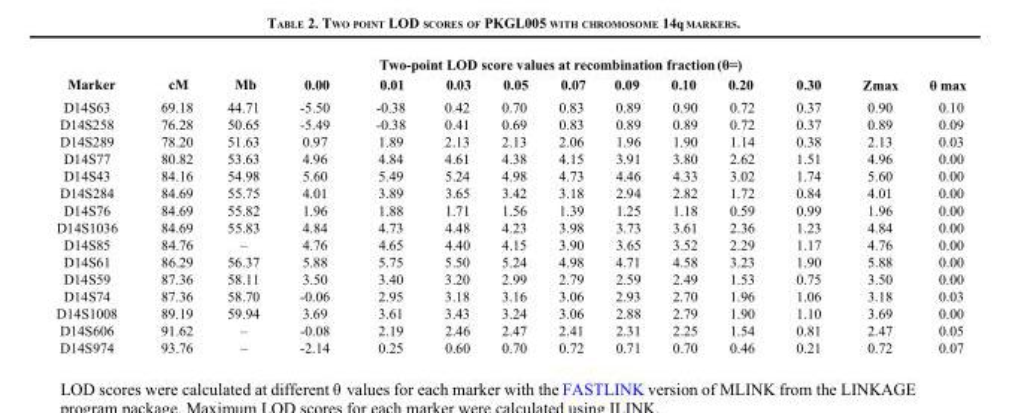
<table><thead><tr><td rowspan="2">Marker</td><td rowspan="2">cM</td><td rowspan="2">Mb</td><td colspan="9">Two-point LOD score values at recombination fraction(θ=)</td><td rowspan="2">Zmax</td><td rowspan="2">θ max</td></tr><tr><td>0.00</td><td>0.01</td><td>0.03</td><td>0.05</td><td>0.07</td><td>0.09</td><td>0.10</td><td>0.20</td><td>0.30</td></tr></thead><tbody><tr><td>D14S63</td><td>69.18</td><td>44.71</td><td>-5.50</td><td>-0.38</td><td>0.42</td><td>0.70</td><td>0.83</td><td>0.89</td><td>0.90</td><td>0.72</td><td>0.37</td><td>0.90</td><td>0.10</td></tr><tr><td>D14S258</td><td>76.28</td><td>50.65</td><td>-5.49</td><td>-0.38</td><td>0.41</td><td>0.69</td><td>0.83</td><td>0.89</td><td>0.89</td><td>0.72</td><td>0.37</td><td>0.89</td><td>0.09</td></tr><tr><td>D14S289</td><td>78.20</td><td>51.63</td><td>0.97</td><td>1.89</td><td>2.13</td><td>2.13</td><td>2.06</td><td>1.96</td><td>1.90</td><td>1.14</td><td>0.38</td><td>2.13</td><td>0.03</td></tr><tr><td>D14S77</td><td>80.82</td><td>53.63</td><td>4.96</td><td>4.84</td><td>4.61</td><td>4.38</td><td>4.15</td><td>3.91</td><td>3.80</td><td>2.62</td><td>1.51</td><td>4.96</td><td>0.00</td></tr><tr><td>D14S43</td><td>84.16</td><td>54.98</td><td>5.60</td><td>5.49</td><td>5.24</td><td>4.98</td><td>4.73</td><td>4.46</td><td>4.33</td><td>3.02</td><td>1.74</td><td>5.60</td><td>0.00</td></tr><tr><td>D14S284</td><td>84.69</td><td>55.75</td><td>4.01</td><td>3.89</td><td>3.65</td><td>3.42</td><td>3.18</td><td>2.94</td><td>2.82</td><td>1.72</td><td>0.84</td><td>4.01</td><td>0.00</td></tr><tr><td>D14S76</td><td>84.69</td><td>55.82</td><td>1.96</td><td>1.88</td><td>1.71</td><td>1.56</td><td>1.39</td><td>1.25</td><td>1.18</td><td>0.59</td><td>0.99</td><td>1.96</td><td>0.00</td></tr><tr><td>D14S1036</td><td>84.69</td><td>55.83</td><td>4.84</td><td>4.73</td><td>4.48</td><td>4.23</td><td>3.98</td><td>3.73</td><td>3.61</td><td>2.36</td><td>1.23</td><td>4.84</td><td>0.00</td></tr><tr><td>D14S85</td><td>84.76</td><td>–</td><td>4.76</td><td>4.65</td><td>4.40</td><td>4.15</td><td>3.90</td><td>3.65</td><td>3.52</td><td>2.29</td><td>1.17</td><td>4.76</td><td>0.00</td></tr><tr><td>D14S61</td><td>86.29</td><td>56.37</td><td>5.88</td><td>5.75</td><td>5.50</td><td>5.24</td><td>4.98</td><td>4.71</td><td>4.58</td><td>3.23</td><td>1.90</td><td>5.88</td><td>0.00</td></tr><tr><td>D14S59</td><td>87.36</td><td>58.11</td><td>3.50</td><td>3.40</td><td>3.20</td><td>2.99</td><td>2.79</td><td>2.59</td><td>2.49</td><td>1.53</td><td>0.75</td><td>3.50</td><td>0.00</td></tr><tr><td>D14S74</td><td>87.36</td><td>58.70</td><td>-0.06</td><td>2.95</td><td>3.18</td><td>3.16</td><td>3.06</td><td>2.93</td><td>2.70</td><td>1.96</td><td>1.06</td><td>3.18</td><td>0.03</td></tr><tr><td>D14S1008</td><td>89.19</td><td>59.94</td><td>3.69</td><td>3.61</td><td>3.43</td><td>3.24</td><td>3.06</td><td>2.88</td><td>2.79</td><td>1.90</td><td>1.10</td><td>3.69</td><td>0.00</td></tr><tr><td>D14S606</td><td>91.62</td><td>–</td><td>-0.08</td><td>2.19</td><td>2.46</td><td>2.47</td><td>2.41</td><td>2.31</td><td>2.25</td><td>1.54</td><td>0.81</td><td>2.47</td><td>0.05</td></tr><tr><td>D14S974</td><td>93.76</td><td>–</td><td>-2.14</td><td>0.25</td><td>0.60</td><td>0.70</td><td>0.72</td><td>0.71</td><td>0.70</td><td>0.46</td><td>0.21</td><td>0.72</td><td>0.07</td></tr></tbody></table>